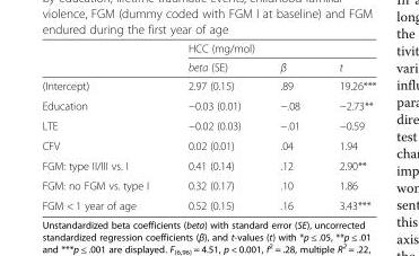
<table><thead><tr><td rowspan="2"></td><td colspan="3">HCC (mg/mol)</td></tr><tr><td>beta (SE)</td><td>β</td><td>t</td></tr></thead><tbody><tr><td>(Intercept)</td><td>2.97 (0.15)</td><td>.89</td><td>19.26***</td></tr><tr><td>Education</td><td>−0.03 (0.01)</td><td>−.08</td><td>−2.73**</td></tr><tr><td>LTE</td><td>−0.02 (0.03)</td><td>−.01</td><td>−0.59</td></tr><tr><td>CFV</td><td>0.02 (0.01)</td><td>.04</td><td>1.94</td></tr><tr><td>FGM: type II/III vs. I</td><td>0.41 (0.14)</td><td>.12</td><td>2.90**</td></tr><tr><td>FGM: no FGM vs. type I</td><td>0.32 (0.17)</td><td>.10</td><td>1.86</td></tr><tr><td>FGM &lt; 1 year of age</td><td>0.52 (0.15)</td><td>.16</td><td>3.43***</td></tr></tbody></table>